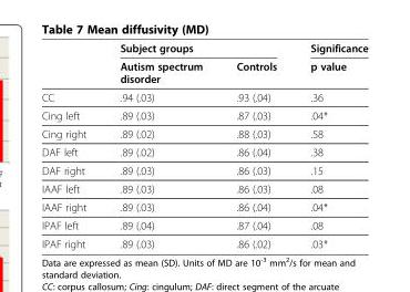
<table><thead><tr><td rowspan="2"></td><td colspan="2">Subject groups</td><td rowspan="2">Significance p value</td></tr><tr><td>Autism spectrum disorder</td><td>Controls</td></tr></thead><tbody><tr><td>CC</td><td>.94 (.03)</td><td>.93 (.04)</td><td>.36</td></tr><tr><td>Cing left</td><td>.89 (.03)</td><td>.87 (.03)</td><td>.04*</td></tr><tr><td>Cing right</td><td>.89 (.02)</td><td>.88 (.03)</td><td>.58</td></tr><tr><td>DAF left</td><td>.89 (.02)</td><td>.86 (.04)</td><td>.38</td></tr><tr><td>DAF right</td><td>.89 (.03)</td><td>.86 (.03)</td><td>.15</td></tr><tr><td>IAAF left</td><td>.89 (.03)</td><td>.86 (.03)</td><td>.08</td></tr><tr><td>IAAF right</td><td>.89 (.03)</td><td>.86 (.04)</td><td>.04*</td></tr><tr><td>IPAF left</td><td>.89 (.04)</td><td>.87 (.04)</td><td>.08</td></tr><tr><td>IPAF right</td><td>.89 (.03)</td><td>.86 (.02)</td><td>.03*</td></tr></tbody></table>